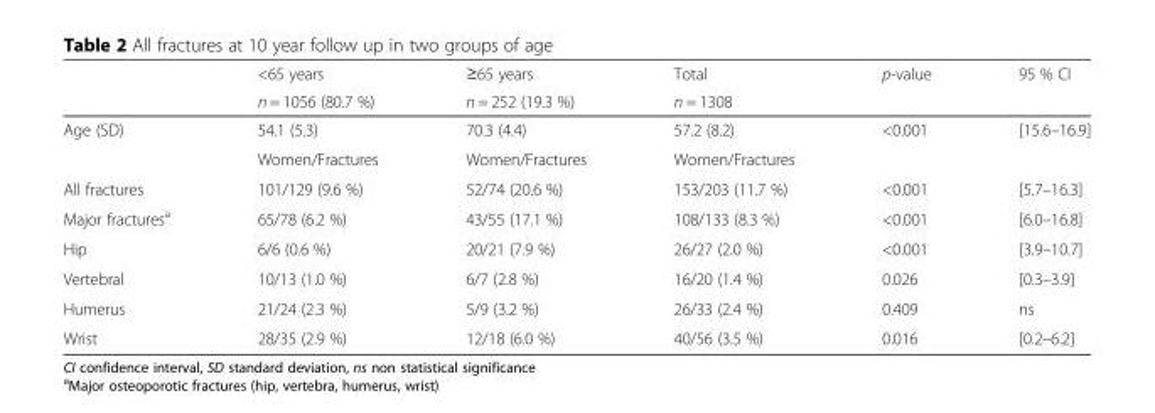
<table><thead><tr><td rowspan="2"></td><td rowspan="2">&lt;65 years n = 1056 (80.7 %)</td><td rowspan="2">≥65 years n = 252 (19.3 %)</td><td rowspan="2">Total n = 1308</td><td rowspan="2">p-value</td><td rowspan="2">95 % CI</td></tr><tr></tr></thead><tbody><tr><td rowspan="2">Age (SD)</td><td>54.1 (5.3)</td><td>70.3 (4.4)</td><td>57.2 (8.2)</td><td>&lt;0.001</td><td>[15.6–16.9]</td></tr><tr><td>Women/Fractures</td><td>Women/Fractures</td><td>Women/Fractures</td><td></td><td></td></tr><tr><td>All fractures</td><td>101/129 (9.6 %)</td><td>52/74 (20.6 %)</td><td>153/203 (11.7 %)</td><td>&lt;0.001</td><td>[5.7–16.3]</td></tr><tr><td>Major fractures<sup>a</sup></td><td>65/78 (6.2 %)</td><td>43/55 (17.1 %)</td><td>108/133 (8.3 %)</td><td>&lt;0.001</td><td>[6.0–16.8]</td></tr><tr><td>Hip</td><td>6/6 (0.6 %)</td><td>20/21 (7.9 %)</td><td>26/27 (2.0 %)</td><td>&lt;0.001</td><td>[3.9–10.7]</td></tr><tr><td>Vertebral</td><td>10/13 (1.0 %)</td><td>6/7 (2.8 %)</td><td>16/20 (1.4 %)</td><td>0.026</td><td>[0.3–3.9]</td></tr><tr><td>Humerus</td><td>21/24 (2.3 %)</td><td>5/9 (3.2 %)</td><td>26/33 (2.4 %)</td><td>0.409</td><td>ns</td></tr><tr><td>Wrist</td><td>28/35 (2.9 %)</td><td>12/18 (6.0 %)</td><td>40/56 (3.5 %)</td><td>0.016</td><td>[0.2–6.2]</td></tr></tbody></table>